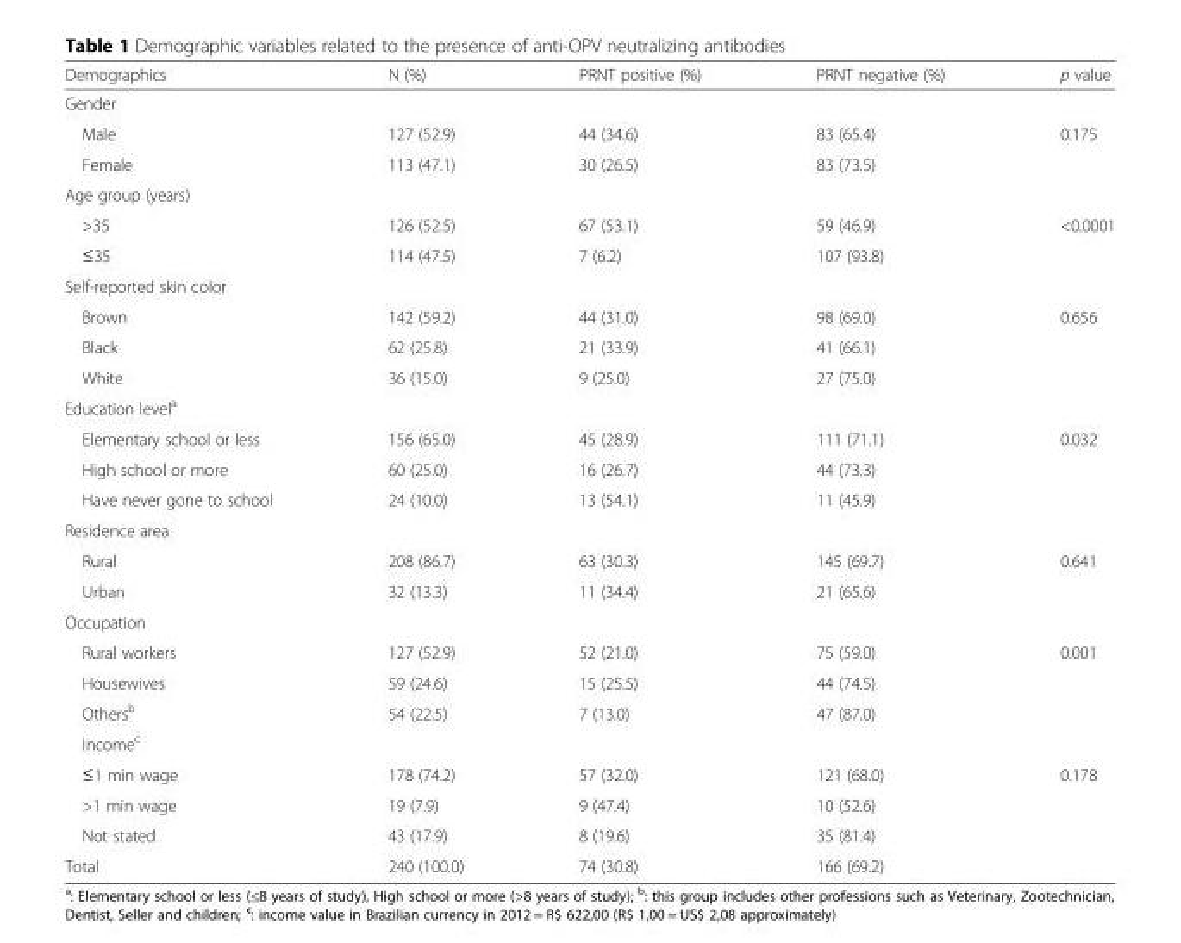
<table><thead><tr><td>Demographics</td><td>N (%)</td><td>PRNT positive (%)</td><td>PRNT negative (%)</td><td>p value</td></tr></thead><tbody><tr><td colspan="5">Gender</td></tr><tr><td>Male</td><td>127 (52.9)</td><td>44 (34.6)</td><td>83 (65.4)</td><td>0.175</td></tr><tr><td>Female</td><td>113 (47.1)</td><td>30 (26.5)</td><td>83 (73.5)</td><td></td></tr><tr><td colspan="5">Age group (years)</td></tr><tr><td>&gt;35</td><td>126 (52.5)</td><td>67 (53.1)</td><td>59 (46.9)</td><td>&lt;0.0001</td></tr><tr><td>≤35</td><td>114 (47.5)</td><td>7 (6.2)</td><td>107 (93.8)</td><td></td></tr><tr><td colspan="5">Self-reported skin color</td></tr><tr><td>Brown</td><td>142 (59.2)</td><td>44 (31.0)</td><td>98 (69.0)</td><td>0.656</td></tr><tr><td>Black</td><td>62 (25.8)</td><td>21 (33.9)</td><td>41 (66.1)</td><td></td></tr><tr><td>White</td><td>36 (15.0)</td><td>9 (25.0)</td><td>27 (75.0)</td><td></td></tr><tr><td colspan="5">Education level<sup>a</sup></td></tr><tr><td>Elementary school or less</td><td>156 (65.0)</td><td>45 (28.9)</td><td>111 (71.1)</td><td>0.032</td></tr><tr><td>High school or more</td><td>60 (25.0)</td><td>16 (26.7)</td><td>44 (73.3)</td><td></td></tr><tr><td>Have never gone to school</td><td>24 (10.0)</td><td>13 (54.1)</td><td>11 (45.9)</td><td></td></tr><tr><td colspan="5">Residence area</td></tr><tr><td>Rural</td><td>208 (86.7)</td><td>63 (30.3)</td><td>145 (69.7)</td><td>0.641</td></tr><tr><td>Urban</td><td>32 (13.3)</td><td>11 (34.4)</td><td>21 (65.6)</td><td></td></tr><tr><td colspan="5">Occupation</td></tr><tr><td>Rural workers</td><td>127 (52.9)</td><td>52 (21.0)</td><td>75 (59.0)</td><td>0.001</td></tr><tr><td>Housewives</td><td>59 (24.6)</td><td>15 (25.5)</td><td>44 (74.5)</td><td></td></tr><tr><td>Others<sup>b</sup></td><td>54 (22.5)</td><td>7 (13.0)</td><td>47 (87.0)</td><td></td></tr><tr><td colspan="5">Income<sup>c</sup></td></tr><tr><td>≤1 min wage</td><td>178 (74.2)</td><td>57 (32.0)</td><td>121 (68.0)</td><td>0.178</td></tr><tr><td>&gt;1 min wage</td><td>19 (7.9)</td><td>9 (47.4)</td><td>10 (52.6)</td><td></td></tr><tr><td>Not stated</td><td>43 (17.9)</td><td>8 (19.6)</td><td>35 (81.4)</td><td></td></tr><tr><td>Total</td><td>240 (100.0)</td><td>74 (30.8)</td><td>166 (69.2)</td><td></td></tr></tbody></table>